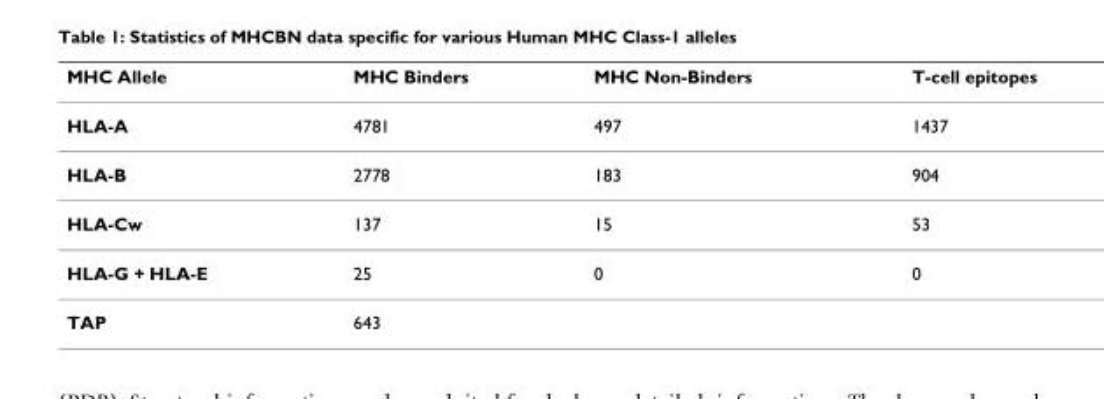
<table><thead><tr><td>MHC Allele</td><td>MHC Binders</td><td>MHC Non-Binders</td><td>T-cell epitopes</td></tr></thead><tbody><tr><td>HLA-A</td><td>4781</td><td>497</td><td>1437</td></tr><tr><td>HLA-B</td><td>2778</td><td>183</td><td>904</td></tr><tr><td>HLA-Cw</td><td>137</td><td>15</td><td>53</td></tr><tr><td>HLA-G + HLA-E</td><td>25</td><td>0</td><td>0</td></tr><tr><td>TAP</td><td>643</td><td></td><td></td></tr></tbody></table>